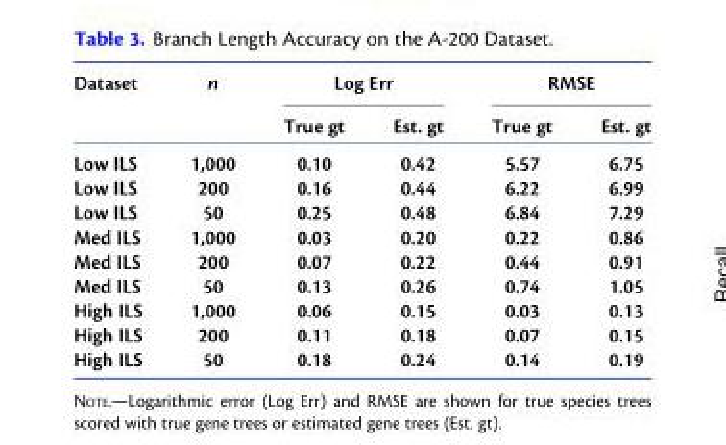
<table><thead><tr><td rowspan="2">Dataset</td><td rowspan="2">n</td><td colspan="2">Log Err</td><td colspan="2">RMSE</td></tr><tr><td>True gt</td><td>Est. gt</td><td>True gt</td><td>Est. gt</td></tr></thead><tbody><tr><td>Low ILS</td><td>1,000</td><td>0.10</td><td>0.42</td><td>5.57</td><td>6.75</td></tr><tr><td>Low ILS</td><td>200</td><td>0.16</td><td>0.44</td><td>6.22</td><td>6.99</td></tr><tr><td>Low ILS</td><td>50</td><td>0.25</td><td>0.48</td><td>6.84</td><td>7.29</td></tr><tr><td>Med ILS</td><td>1,000</td><td>0.03</td><td>0.20</td><td>0.22</td><td>0.86</td></tr><tr><td>Med ILS</td><td>200</td><td>0.07</td><td>0.22</td><td>0.44</td><td>0.91</td></tr><tr><td>Med ILS</td><td>50</td><td>0.13</td><td>0.26</td><td>0.74</td><td>1.05</td></tr><tr><td>High ILS</td><td>1,000</td><td>0.06</td><td>0.15</td><td>0.03</td><td>0.13</td></tr><tr><td>High ILS</td><td>200</td><td>0.11</td><td>0.18</td><td>0.07</td><td>0.15</td></tr><tr><td>High ILS</td><td>50</td><td>0.18</td><td>0.24</td><td>0.14</td><td>0.19</td></tr></tbody></table>